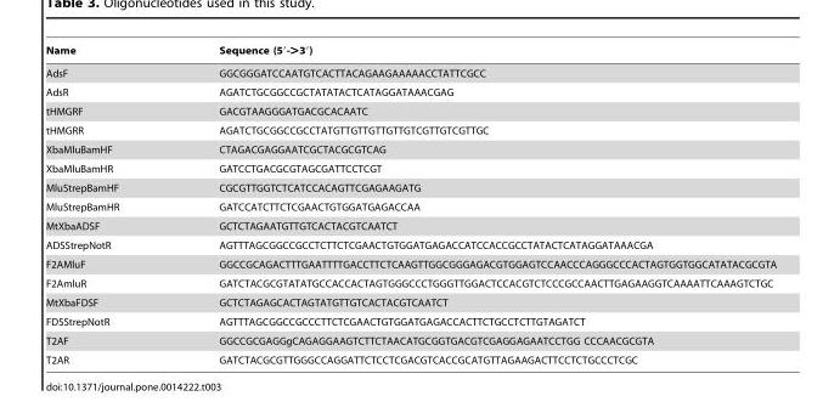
<table><thead><tr><td>Name</td><td>Sequence (5′-&gt;3′)</td></tr></thead><tbody><tr><td>AdsF</td><td>GGCGGGATCCAATGTCACTTACAGAAGAAAAACCTATTCGCC</td></tr><tr><td>AdsR</td><td>AGATCTGCGGCCGCTATATACTCATAGGATAAACGAG</td></tr><tr><td>tHMGRF</td><td>GACGTAAGGGATGACGCACAATC</td></tr><tr><td>tHMGRR</td><td>AGATCTGCGGCCGCCTATGTTGTTGTTGTTGTCGTTGTCGTTGC</td></tr><tr><td>XbaMluBamHF</td><td>CTAGACGAGGAATCGCTACGCGTCAG</td></tr><tr><td>XbaMluBamHR</td><td>GATCCTGACGCGTAGCGATTCCTCGT</td></tr><tr><td>MluStrepBamHF</td><td>CGCGTTGGTCTCATCCACAGTTCGAGAAGATG</td></tr><tr><td>MluStrepBamHR</td><td>GATCCATCTTCTCGAACTGTGGATGAGACCAA</td></tr><tr><td>MtXbaADSF</td><td>GCTCTAGAATGTTGTCACTACGTCAATCT</td></tr><tr><td>ADSStrepNotR</td><td>AGTTTAGCGGCCGCCTCTTCTCGAACTGTGGATGAGACCATCCACCGCCTATACTCATAGGATAAACGA</td></tr><tr><td>F2AMluF</td><td>GGCCGCAGACTTTGAATTTTGACCTTCTCAAGTTGGCGGGAGACGTGGAGTCCAACCCAGGGCCCACTAGTGGTGGCATATACGCGTA</td></tr><tr><td>F2AmluR</td><td>GATCTACGCGTATATGCCACCACTAGTGGGCCCTGGGTTGGACTCCACGTCTCCCGCCAACTTGAGAAGGTCAAAATTCAAAGTCTGC</td></tr><tr><td>MtXbaFDSF</td><td>GCTCTAGAGCACTAGTATGTTGTCACTACGTCAATCT</td></tr><tr><td>FDSStrepNotR</td><td>AGTTTAGCGGCCGCCCTTCTCGAACTGTGGATGAGACCACTTCTGCCTCTTGTAGATCT</td></tr><tr><td>T2AF</td><td>GGCCGCGAGGgCAGAGGAAGTCTTCTAACATGCGGTGACGTCGAGGAGAATCCTGG CCCAACGCGTA</td></tr><tr><td>T2AR</td><td>GATCTACGCGTTGGGCCAGGATTCTCCTCGACGTCACCGCATGTTAGAAGACTTCCTCTGCCCTCGC</td></tr></tbody></table>